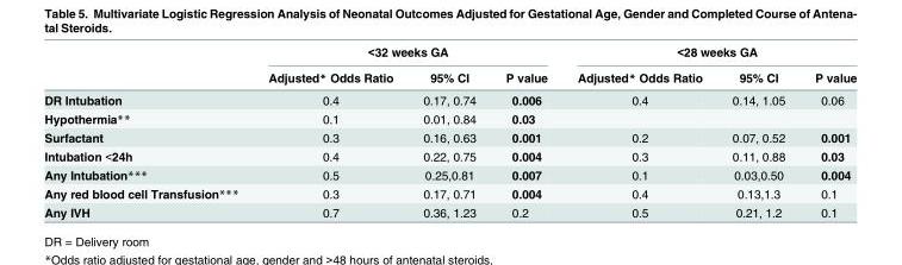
<table><thead><tr><td rowspan="2"></td><td colspan="3">&lt;32 weeks GA</td><td colspan="3">&lt;28 weeks GA</td></tr><tr><td>Adjusted* Odds Ratio</td><td>95% CI</td><td>P value</td><td>Adjusted* Odds Ratio</td><td>95% CI</td><td>P value</td></tr></thead><tbody><tr><td>DR Intubation</td><td>0.4</td><td>0.17, 0.74</td><td>0.006</td><td>0.4</td><td>0.14, 1.05</td><td>0.06</td></tr><tr><td>Hypothermia**</td><td>0.1</td><td>0.01, 0.84</td><td>0.03</td><td></td><td></td><td></td></tr><tr><td>Surfactant</td><td>0.3</td><td>0.16, 0.63</td><td>0.001</td><td>0.2</td><td>0.07, 0.52</td><td>0.001</td></tr><tr><td>Intubation &lt;24h</td><td>0.4</td><td>0.22, 0.75</td><td>0.004</td><td>0.3</td><td>0.11, 0.88</td><td>0.03</td></tr><tr><td>Any Intubation***</td><td>0.5</td><td>0.25,0.81</td><td>0.007</td><td>0.1</td><td>0.03,0.50</td><td>0.004</td></tr><tr><td>Any red blood cell Transfusion***</td><td>0.3</td><td>0.17, 0.71</td><td>0.004</td><td>0.4</td><td>0.13,1.3</td><td>0.1</td></tr><tr><td>Any IVH</td><td>0.7</td><td>0.36, 1.23</td><td>0.2</td><td>0.5</td><td>0.21, 1.2</td><td>0.1</td></tr></tbody></table>